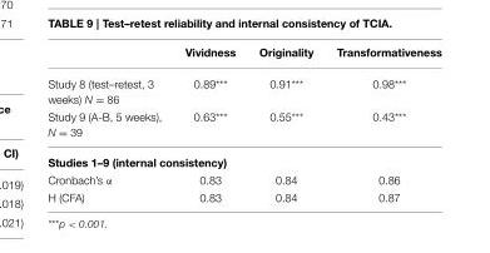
<table><thead><tr><td></td><td>Vividness</td><td>Originality</td><td>Transformativeness</td></tr></thead><tbody><tr><td>Study 8 (test–retest, 3 weeks) N = 86</td><td>0.89***</td><td>0.91***</td><td>0.98***</td></tr><tr><td>Study 9 (A-B, 5 weeks), N = 39</td><td>0.63***</td><td>0.55***</td><td>0.43***</td></tr><tr><td colspan="4">Studies 1–9 (internal consistency)</td></tr><tr><td>Cronbach’s α</td><td>0.83</td><td>0.84</td><td>0.86</td></tr><tr><td>H (CFA)</td><td>0.83</td><td>0.84</td><td>0.87</td></tr></tbody></table>